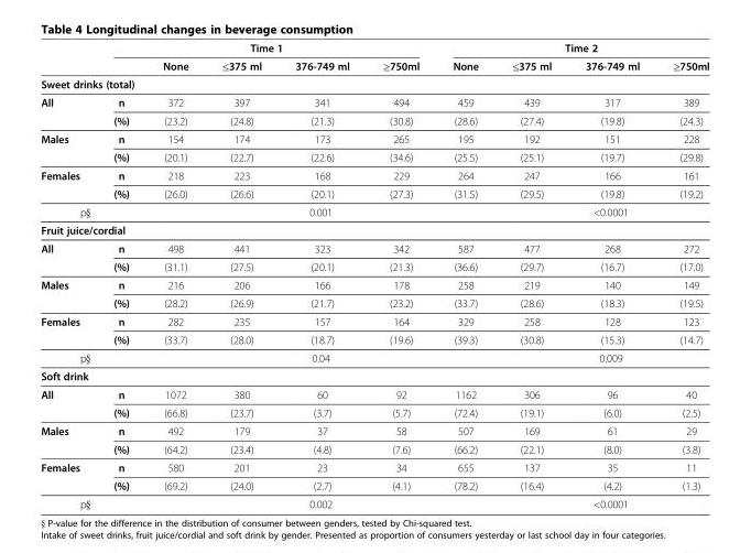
<table><thead><tr><td rowspan="2"></td><td colspan="5">Time 1</td><td colspan="4">Time 2</td></tr><tr><td></td><td>None</td><td>≤375 ml</td><td>376-749 ml</td><td>≥750ml</td><td>None</td><td>≤375 ml</td><td>376-749 ml</td><td>≥750ml</td></tr></thead><tbody><tr><td colspan="10">Sweet drinks (total)</td></tr><tr><td rowspan="2">All</td><td>n</td><td>372</td><td>397</td><td>341</td><td>494</td><td>459</td><td>439</td><td>317</td><td>389</td></tr><tr><td>(%)</td><td>(23.2)</td><td>(24.8)</td><td>(21.3)</td><td>(30.8)</td><td>(28.6)</td><td>(27.4)</td><td>(19.8)</td><td>(24.3)</td></tr><tr><td rowspan="2">Males</td><td>n</td><td>154</td><td>174</td><td>173</td><td>265</td><td>195</td><td>192</td><td>151</td><td>228</td></tr><tr><td>(%)</td><td>(20.1)</td><td>(22.7)</td><td>(22.6)</td><td>(34.6)</td><td>(25.5)</td><td>(25.1)</td><td>(19.7)</td><td>(29.8)</td></tr><tr><td rowspan="2">Females</td><td>n</td><td>218</td><td>223</td><td>168</td><td>229</td><td>264</td><td>247</td><td>166</td><td>161</td></tr><tr><td>(%)</td><td>(26.0)</td><td>(26.6)</td><td>(20.1)</td><td>(27.3)</td><td>(31.5)</td><td>(29.5)</td><td>(19.8)</td><td>(19.2)</td></tr><tr><td colspan="2">p§</td><td colspan="5">0.001</td><td colspan="3">&lt;0.0001</td></tr><tr><td colspan="10">Fruit juice/cordial</td></tr><tr><td rowspan="2">All</td><td>n</td><td>498</td><td>441</td><td>323</td><td>342</td><td>587</td><td>477</td><td>268</td><td>272</td></tr><tr><td>(%)</td><td>(31.1)</td><td>(27.5)</td><td>(20.1)</td><td>(21.3)</td><td>(36.6)</td><td>(29.7)</td><td>(16.7)</td><td>(17.0)</td></tr><tr><td rowspan="2">Males</td><td>n</td><td>216</td><td>206</td><td>166</td><td>178</td><td>258</td><td>219</td><td>140</td><td>149</td></tr><tr><td>(%)</td><td>(28.2)</td><td>(26.9)</td><td>(21.7)</td><td>(23.2)</td><td>(33.7)</td><td>(28.6)</td><td>(18.3)</td><td>(19.5)</td></tr><tr><td rowspan="2">Females</td><td>n</td><td>282</td><td>235</td><td>157</td><td>164</td><td>329</td><td>258</td><td>128</td><td>123</td></tr><tr><td>(%)</td><td>(33.7)</td><td>(28.0)</td><td>(18.7)</td><td>(19.6)</td><td>(39.3)</td><td>(30.8)</td><td>(15.3)</td><td>(14.7)</td></tr><tr><td colspan="2">p§</td><td colspan="5">0.04</td><td colspan="3">0.009</td></tr><tr><td colspan="10">Soft drink</td></tr><tr><td rowspan="2">All</td><td>n</td><td>1072</td><td>380</td><td>60</td><td>92</td><td>1162</td><td>306</td><td>96</td><td>40</td></tr><tr><td>(%)</td><td>(66.8)</td><td>(23.7)</td><td>(3.7)</td><td>(5.7)</td><td>(72.4)</td><td>(19.1)</td><td>(6.0)</td><td>(2.5)</td></tr><tr><td rowspan="2">Males</td><td>n</td><td>492</td><td>179</td><td>37</td><td>58</td><td>507</td><td>169</td><td>61</td><td>29</td></tr><tr><td>(%)</td><td>(64.2)</td><td>(23.4)</td><td>(4.8)</td><td>(7.6)</td><td>(66.2)</td><td>(22.1)</td><td>(8.0)</td><td>(3.8)</td></tr><tr><td rowspan="2">Females</td><td>n</td><td>580</td><td>201</td><td>23</td><td>34</td><td>655</td><td>137</td><td>35</td><td>11</td></tr><tr><td>(%)</td><td>(69.2)</td><td>(24.0)</td><td>(2.7)</td><td>(4.1)</td><td>(78.2)</td><td>(16.4)</td><td>(4.2)</td><td>(1.3)</td></tr><tr><td colspan="2">p§</td><td colspan="5">0.002</td><td colspan="3">&lt;0.0001</td></tr></tbody></table>